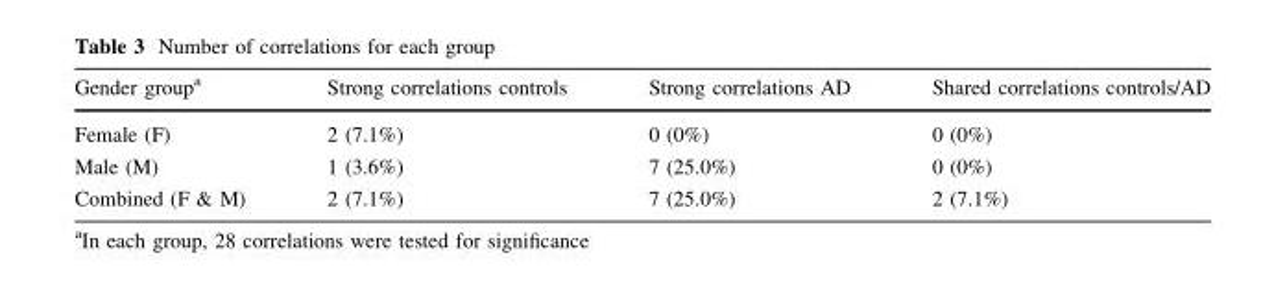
<table><thead><tr><td>Gender group<sup>a</sup></td><td>Strong correlations controls</td><td>Strong correlations AD</td><td>Shared correlations controls/AD</td></tr></thead><tbody><tr><td>Female (F)</td><td>2 (7.1%)</td><td>0 (0%)</td><td>0 (0%)</td></tr><tr><td>Male (M)</td><td>1 (3.6%)</td><td>7 (25.0%)</td><td>0 (0%)</td></tr><tr><td>Combined (F &amp; M)</td><td>2 (7.1%)</td><td>7 (25.0%)</td><td>2 (7.1%)</td></tr></tbody></table>